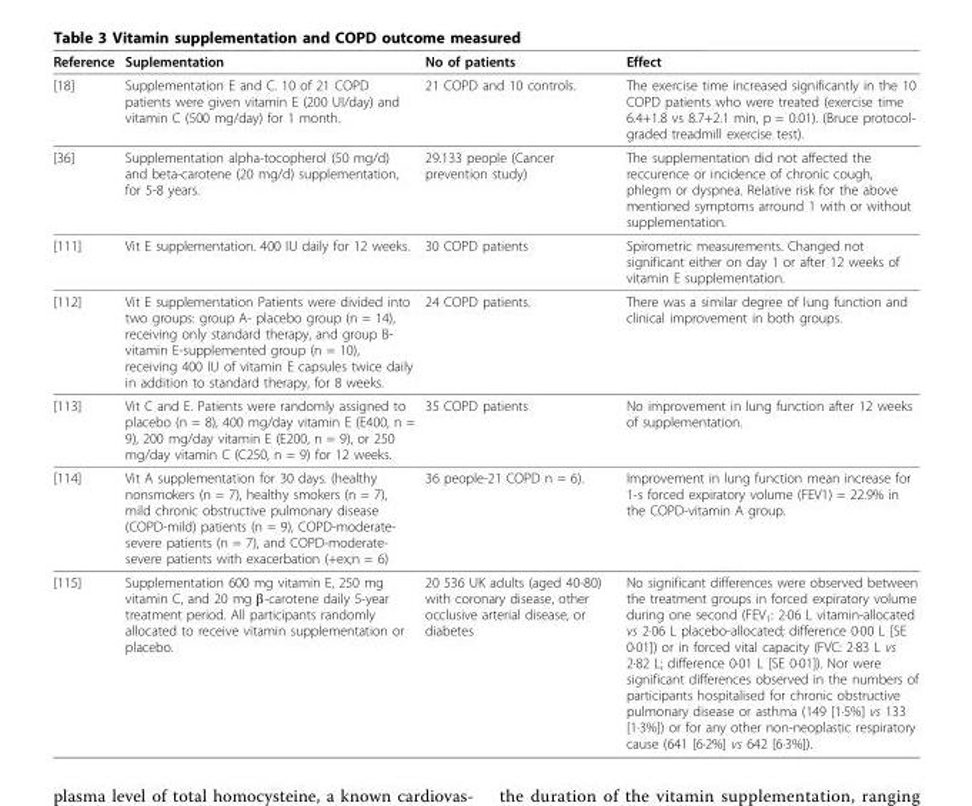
<table><thead><tr><td>Reference</td><td>Suplementation</td><td>No of patients</td><td>Effect</td></tr></thead><tbody><tr><td>[18]</td><td>Supplementation E and C. 10 of 21 COPD patients were given vitamin E (200 UI/day) and vitamin C (500 mg/day) for 1 month.</td><td>21 COPD and 10 controls.</td><td>The exercise time increased significantly in the 10 COPD patients who were treated (exercise time 6.4+1.8 vs 8.7+2.1 min, p = 0.01). (Bruce protocol- graded treadmill exercise test).</td></tr><tr><td>[36]</td><td>Supplementation alpha-tocopherol (50 mg/d) and beta-carotene (20 mg/d) supplementation, for 5-8 years.</td><td>29.133 people (Cancer prevention study)</td><td>The supplementation did not affected the reccurence or incidence of chronic cough, phlegm or dyspnea. Relative risk for the above mentioned symptoms arround 1 with or without supplementation.</td></tr><tr><td>[111]</td><td>Vit E supplementation. 400 IU daily for 12 weeks.</td><td>30 COPD patients</td><td>Spirometric measurements. Changed not significant either on day 1 or after 12 weeks of vitamin E supplementation.</td></tr><tr><td>[112]</td><td>Vit E supplementation Patients were divided into two groups: group A- placebo group (n = 14), receiving only standard therapy, and group B- vitamin E-supplemented group (n = 10), receiving 400 IU of vitamin E capsules twice daily in addition to standard therapy, for 8 weeks.</td><td>24 COPD patients.</td><td>There was a similar degree of lung function and clinical improvement in both groups.</td></tr><tr><td>[113]</td><td>Vit C and E. Patients were randomly assigned to placebo (n = 8), 400 mg/day vitamin E (E400, n = 9), 200 mg/day vitamin E (E200, n = 9), or 250 mg/day vitamin C (C250, n = 9) for 12 weeks.</td><td>35 COPD patients</td><td>No improvement in lung function after 12 weeks of supplementation.</td></tr><tr><td>[114]</td><td>Vit A supplementation for 30 days. (healthy nonsmokers (n = 7), healthy smokers (n = 7), mild chronic obstructive pulmonary disease (COPD-mild) patients (n = 9), COPD-moderate- severe patients (n = 7), and COPD-moderate- severe patients with exacerbation (+ex;n = 6)</td><td>36 people-21 COPD n = 6).</td><td>Improvement in lung function mean increase for 1-s forced expiratory volume (FEV1) = 22.9% in the COPD-vitamin A group.</td></tr><tr><td>[115]</td><td>Supplementation 600 mg vitamin E, 250 mg vitamin C, and 20 mg β-carotene daily 5-year treatment period. All participants randomly allocated to receive vitamin supplementation or placebo.</td><td>20 536 UK adults (aged 40-80) with coronary disease, other occlusive arterial disease, or diabetes</td><td>No significant differences were observed between the treatment groups in forced expiratory volume during one second (FEV1: 2·06 L vitamin-allocated vs 2·06 L placebo-allocated; difference 0·00 L [SE 0·01]) or in forced vital capacity (FVC: 2·83 L vs 2·82 L; difference 0·01 L [SE 0·01]). Nor were significant differences observed in the numbers of participants hospitalised for chronic obstructive pulmonary disease or asthma (149 [1·5%] vs 133 [1·3%]) or for any other non-neoplastic respiratory cause (641 [6·2%] vs 642 [6·3%]).</td></tr></tbody></table>